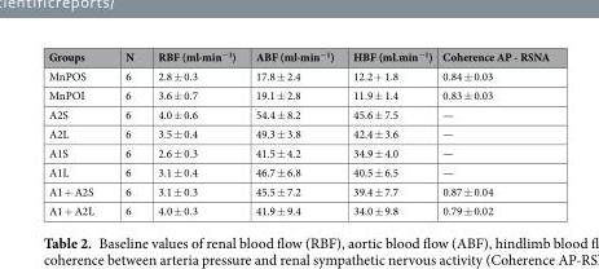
<table><thead><tr><td>Groups</td><td>N</td><td>RBF (ml·min<sup>−1</sup>)</td><td>ABF (ml·min<sup>−1</sup>)</td><td>HBF (ml.min<sup>−1</sup>)</td><td>Coherence AP - RSNA</td></tr></thead><tbody><tr><td>MnPOS</td><td>6</td><td>2.8 ± 0.3</td><td>17.8 ± 2.4</td><td>12.2 + 1.8</td><td>0.84 ± 0.03</td></tr><tr><td>MnPOI</td><td>6</td><td>3.6 ± 0.7</td><td>19.1 ± 2.8</td><td>11.9 ± 1.4</td><td>0.83 ± 0.03</td></tr><tr><td>A2S</td><td>6</td><td>4.0 ± 0.6</td><td>54.4 ± 8.2</td><td>45.6 ± 7.5</td><td>—</td></tr><tr><td>A2L</td><td>6</td><td>3.5 ± 0.4</td><td>49.3 ± 3.8</td><td>42.4 ± 3.6</td><td>—</td></tr><tr><td>A1S</td><td>6</td><td>2.6 ± 0.3</td><td>41.5 ± 4.2</td><td>34.9 ± 4.0</td><td>—</td></tr><tr><td>A1L</td><td>6</td><td>3.1 ± 0.4</td><td>46.7 ± 6.8</td><td>40.5 ± 6.5</td><td>—</td></tr><tr><td>A1 + A2S</td><td>6</td><td>3.1 ± 0.3</td><td>45.5 ± 7.2</td><td>39.4 ± 7.7</td><td>0.87 ± 0.04</td></tr><tr><td>A1 + A2L</td><td>6</td><td>4.0 ± 0.3</td><td>41.9 ± 9.4</td><td>34.0 ± 9.8</td><td>0.79 ± 0.02</td></tr></tbody></table>